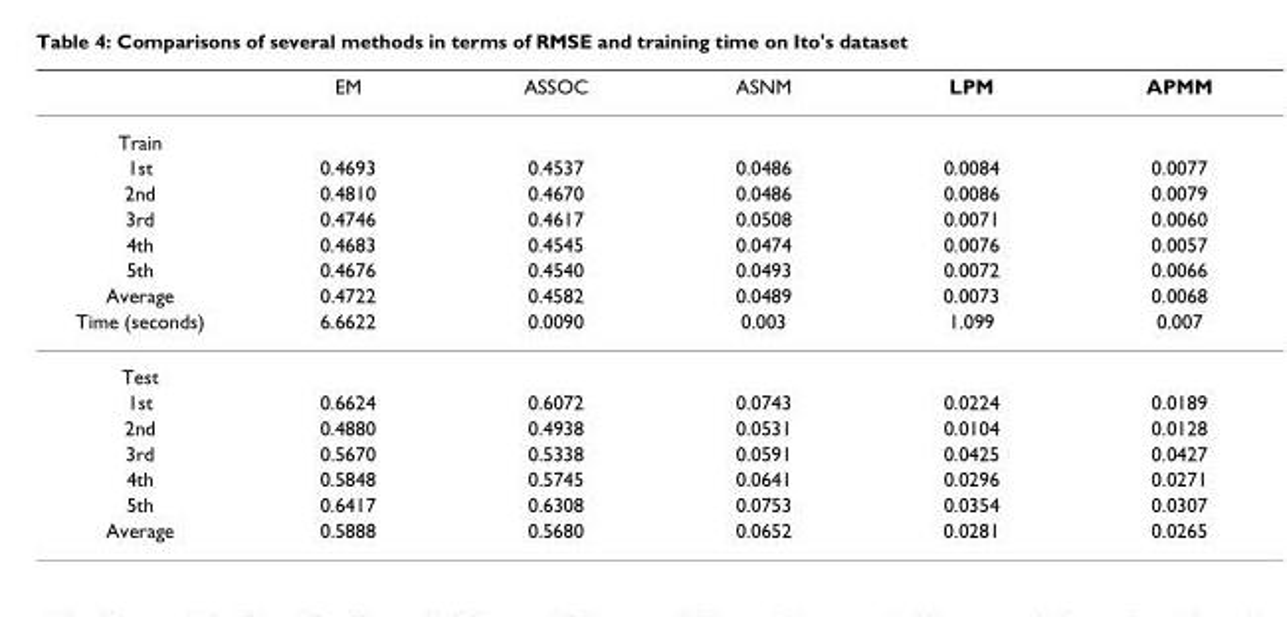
<table><thead><tr><td></td><td>EM</td><td>ASSOC</td><td>ASNM</td><td>LPM</td><td>APMM</td></tr></thead><tbody><tr><td colspan="6">Train</td></tr><tr><td>1st</td><td>0.4693</td><td>0.4537</td><td>0.0486</td><td>0.0084</td><td>0.0077</td></tr><tr><td>2nd</td><td>0.4810</td><td>0.4670</td><td>0.0486</td><td>0.0086</td><td>0.0079</td></tr><tr><td>3rd</td><td>0.4746</td><td>0.4617</td><td>0.0508</td><td>0.0071</td><td>0.0060</td></tr><tr><td>4th</td><td>0.4683</td><td>0.4545</td><td>0.0474</td><td>0.0076</td><td>0.0057</td></tr><tr><td>5th</td><td>0.4676</td><td>0.4540</td><td>0.0493</td><td>0.0072</td><td>0.0066</td></tr><tr><td>Average</td><td>0.4722</td><td>0.4582</td><td>0.0489</td><td>0.0073</td><td>0.0068</td></tr><tr><td>Time (seconds)</td><td>6.6622</td><td>0.0090</td><td>0.003</td><td>1.099</td><td>0.007</td></tr><tr><td colspan="6">Test</td></tr><tr><td>1st</td><td>0.6624</td><td>0.6072</td><td>0.0743</td><td>0.0224</td><td>0.0189</td></tr><tr><td>2nd</td><td>0.4880</td><td>0.4938</td><td>0.0531</td><td>0.0104</td><td>0.0128</td></tr><tr><td>3rd</td><td>0.5670</td><td>0.5338</td><td>0.0591</td><td>0.0425</td><td>0.0427</td></tr><tr><td>4th</td><td>0.5848</td><td>0.5745</td><td>0.0641</td><td>0.0296</td><td>0.0271</td></tr><tr><td>5th</td><td>0.6417</td><td>0.6308</td><td>0.0753</td><td>0.0354</td><td>0.0307</td></tr><tr><td>Average</td><td>0.5888</td><td>0.5680</td><td>0.0652</td><td>0.0281</td><td>0.0265</td></tr></tbody></table>